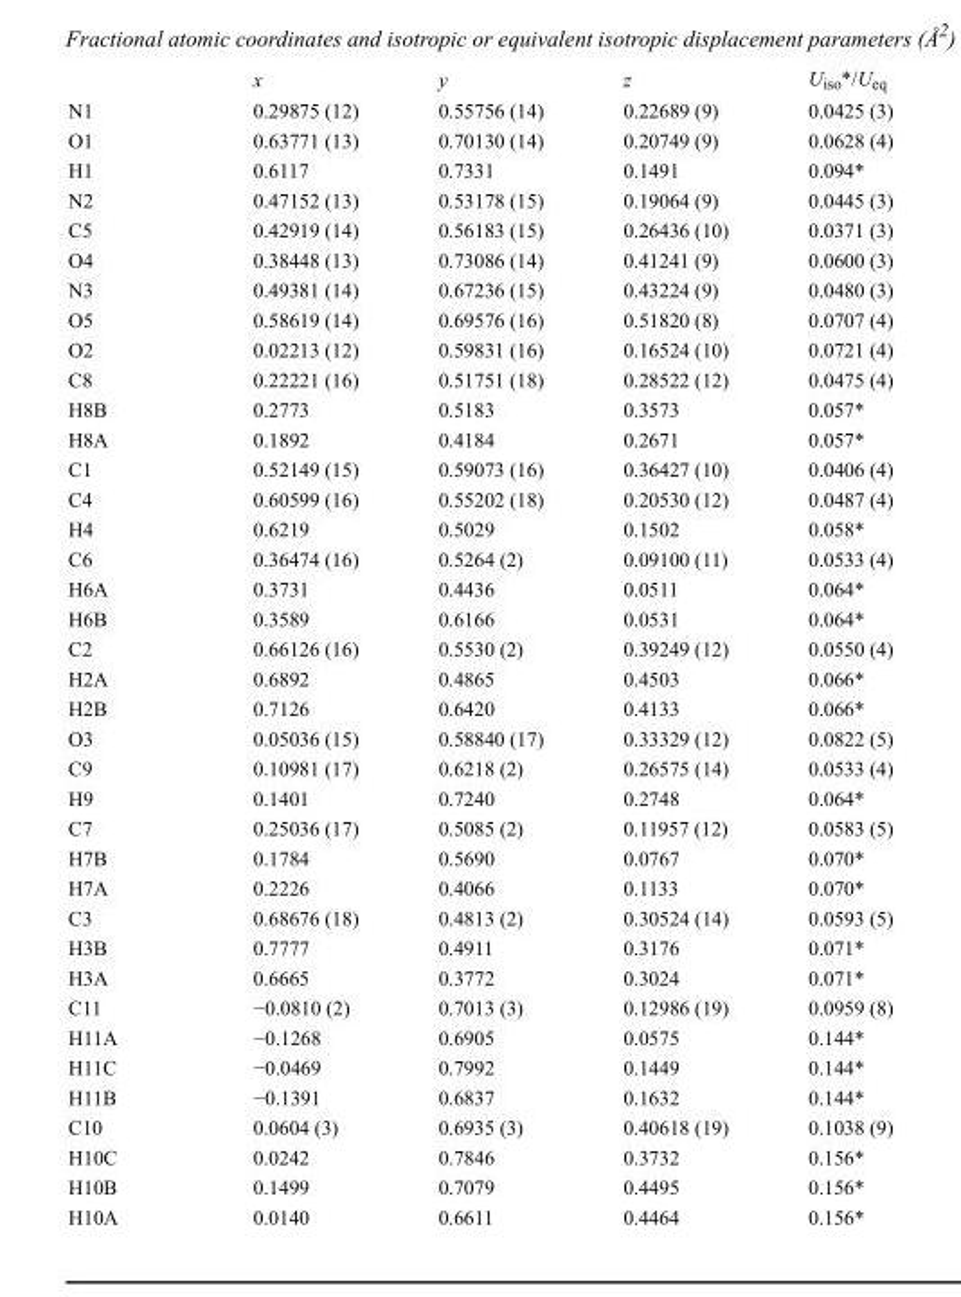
<table><thead><tr><td></td><td>x</td><td>y</td><td>z</td><td>U<sub>iso</sub>*/U<sub>eq</sub></td></tr></thead><tbody><tr><td>N1</td><td>0.29875 (12)</td><td>0.55756 (14)</td><td>0.22689 (9)</td><td>0.0425 (3)</td></tr><tr><td>O1</td><td>0.63771 (13)</td><td>0.70130 (14)</td><td>0.20749 (9)</td><td>0.0628 (4)</td></tr><tr><td>H1</td><td>0.6117</td><td>0.7331</td><td>0.1491</td><td>0.094*</td></tr><tr><td>N2</td><td>0.47152 (13)</td><td>0.53178 (15)</td><td>0.19064 (9)</td><td>0.0445 (3)</td></tr><tr><td>C5</td><td>0.42919 (14)</td><td>0.56183 (15)</td><td>0.26436 (10)</td><td>0.0371 (3)</td></tr><tr><td>O4</td><td>0.38448 (13)</td><td>0.73086 (14)</td><td>0.41241 (9)</td><td>0.0600 (3)</td></tr><tr><td>N3</td><td>0.49381 (14)</td><td>0.67236 (15)</td><td>0.43224 (9)</td><td>0.0480 (3)</td></tr><tr><td>O5</td><td>0.58619 (14)</td><td>0.69576 (16)</td><td>0.51820 (8)</td><td>0.0707 (4)</td></tr><tr><td>O2</td><td>0.02213 (12)</td><td>0.59831 (16)</td><td>0.16524 (10)</td><td>0.0721 (4)</td></tr><tr><td>C8</td><td>0.22221 (16)</td><td>0.51751 (18)</td><td>0.28522 (12)</td><td>0.0475 (4)</td></tr><tr><td>H8B</td><td>0.2773</td><td>0.5183</td><td>0.3573</td><td>0.057*</td></tr><tr><td>H8A</td><td>0.1892</td><td>0.4184</td><td>0.2671</td><td>0.057*</td></tr><tr><td>C1</td><td>0.52149 (15)</td><td>0.59073 (16)</td><td>0.36427 (10)</td><td>0.0406 (4)</td></tr><tr><td>C4</td><td>0.60599 (16)</td><td>0.55202 (18)</td><td>0.20530 (12)</td><td>0.0487 (4)</td></tr><tr><td>H4</td><td>0.6219</td><td>0.5029</td><td>0.1502</td><td>0.058*</td></tr><tr><td>C6</td><td>0.36474 (16)</td><td>0.5264 (2)</td><td>0.09100 (11)</td><td>0.0533 (4)</td></tr><tr><td>H6A</td><td>0.3731</td><td>0.4436</td><td>0.0511</td><td>0.064*</td></tr><tr><td>H6B</td><td>0.3589</td><td>0.6166</td><td>0.0531</td><td>0.064*</td></tr><tr><td>C2</td><td>0.66126 (16)</td><td>0.5530 (2)</td><td>0.39249 (12)</td><td>0.0550 (4)</td></tr><tr><td>H2A</td><td>0.6892</td><td>0.4865</td><td>0.4503</td><td>0.066*</td></tr><tr><td>H2B</td><td>0.7126</td><td>0.6420</td><td>0.4133</td><td>0.066*</td></tr><tr><td>O3</td><td>0.05036 (15)</td><td>0.58840 (17)</td><td>0.33329 (12)</td><td>0.0822 (5)</td></tr><tr><td>C9</td><td>0.10981 (17)</td><td>0.6218 (2)</td><td>0.26575 (14)</td><td>0.0533 (4)</td></tr><tr><td>H9</td><td>0.1401</td><td>0.7240</td><td>0.2748</td><td>0.064*</td></tr><tr><td>C7</td><td>0.25036 (17)</td><td>0.5085 (2)</td><td>0.11957 (12)</td><td>0.0583 (5)</td></tr><tr><td>H7B</td><td>0.1784</td><td>0.5690</td><td>0.0767</td><td>0.070*</td></tr><tr><td>H7A</td><td>0.2226</td><td>0.4066</td><td>0.1133</td><td>0.070*</td></tr><tr><td>C3</td><td>0.68676 (18)</td><td>0.4813 (2)</td><td>0.30524 (14)</td><td>0.0593 (5)</td></tr><tr><td>H3B</td><td>0.7777</td><td>0.4911</td><td>0.3176</td><td>0.071*</td></tr><tr><td>H3A</td><td>0.6665</td><td>0.3772</td><td>0.3024</td><td>0.071*</td></tr><tr><td>C11</td><td>−0.0810 (2)</td><td>0.7013 (3)</td><td>0.12986 (19)</td><td>0.0959 (8)</td></tr><tr><td>H11A</td><td>−0.1268</td><td>0.6905</td><td>0.0575</td><td>0.144*</td></tr><tr><td>H11C</td><td>−0.0469</td><td>0.7992</td><td>0.1449</td><td>0.144*</td></tr><tr><td>H11B</td><td>−0.1391</td><td>0.6837</td><td>0.1632</td><td>0.144*</td></tr><tr><td>C10</td><td>0.0604 (3)</td><td>0.6935 (3)</td><td>0.40618 (19)</td><td>0.1038 (9)</td></tr><tr><td>H10C</td><td>0.0242</td><td>0.7846</td><td>0.3732</td><td>0.156*</td></tr><tr><td>H10B</td><td>0.1499</td><td>0.7079</td><td>0.4495</td><td>0.156*</td></tr><tr><td>H10A</td><td>0.0140</td><td>0.6611</td><td>0.4464</td><td>0.156*</td></tr></tbody></table>